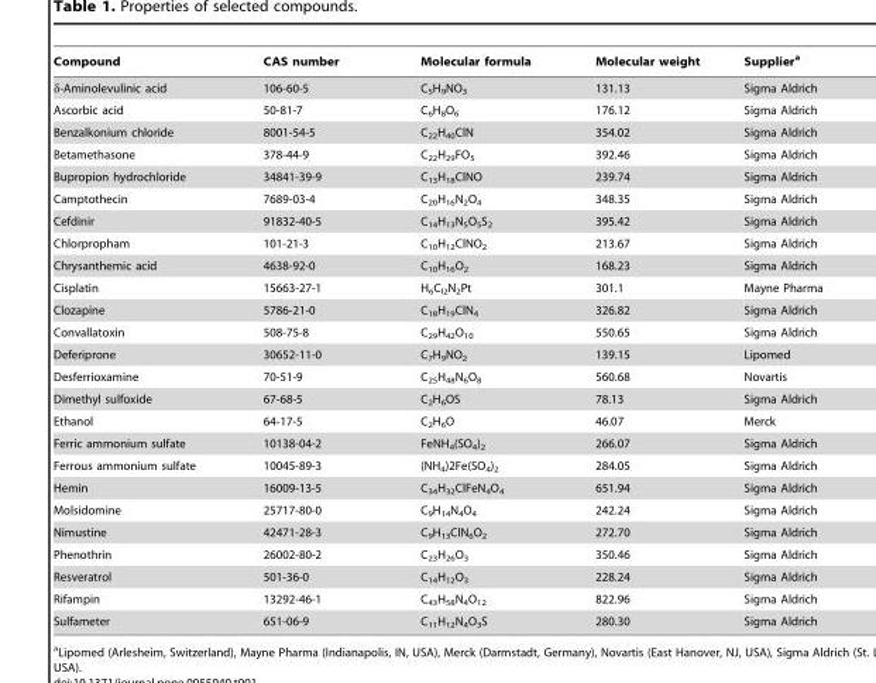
<table><thead><tr><td>Compound</td><td>CAS number</td><td>Molecular formula</td><td>Molecular weight</td><td>Supplier<sup>a</sup></td></tr></thead><tbody><tr><td>δ-Aminolevulinic acid</td><td>106-60-5</td><td>C<sub>5</sub>H<sub>9</sub>NO<sub>3</sub></td><td>131.13</td><td>Sigma Aldrich</td></tr><tr><td>Ascorbic acid</td><td>50-81-7</td><td>C<sub>6</sub>H<sub>8</sub>O<sub>6</sub></td><td>176.12</td><td>Sigma Aldrich</td></tr><tr><td>Benzalkonium chloride</td><td>8001-54-5</td><td>C<sub>22</sub>H<sub>40</sub>ClN</td><td>354.02</td><td>Sigma Aldrich</td></tr><tr><td>Betamethasone</td><td>378-44-9</td><td>C<sub>22</sub>H<sub>29</sub>FO<sub>5</sub></td><td>392.46</td><td>Sigma Aldrich</td></tr><tr><td>Bupropion hydrochloride</td><td>34841-39-9</td><td>C<sub>13</sub>H<sub>18</sub>ClNO</td><td>239.74</td><td>Sigma Aldrich</td></tr><tr><td>Camptothecin</td><td>7689-03-4</td><td>C<sub>20</sub>H<sub>16</sub>N<sub>2</sub>O<sub>4</sub></td><td>348.35</td><td>Sigma Aldrich</td></tr><tr><td>Cefdinir</td><td>91832-40-5</td><td>C<sub>14</sub>H<sub>13</sub>N<sub>5</sub>O<sub>5</sub>S<sub>2</sub></td><td>395.42</td><td>Sigma Aldrich</td></tr><tr><td>Chlorpropham</td><td>101-21-3</td><td>C<sub>10</sub>H<sub>12</sub>ClNO<sub>2</sub></td><td>213.67</td><td>Sigma Aldrich</td></tr><tr><td>Chrysanthemic acid</td><td>4638-92-0</td><td>C<sub>10</sub>H<sub>16</sub>O<sub>2</sub></td><td>168.23</td><td>Sigma Aldrich</td></tr><tr><td>Cisplatin</td><td>15663-27-1</td><td>H<sub>6</sub>C<sub>l2</sub>N<sub>2</sub>Pt</td><td>301.1</td><td>Mayne Pharma</td></tr><tr><td>Clozapine</td><td>5786-21-0</td><td>C<sub>18</sub>H<sub>19</sub>ClN<sub>4</sub></td><td>326.82</td><td>Sigma Aldrich</td></tr><tr><td>Convallatoxin</td><td>508-75-8</td><td>C<sub>29</sub>H<sub>42</sub>O<sub>10</sub></td><td>550.65</td><td>Sigma Aldrich</td></tr><tr><td>Deferiprone</td><td>30652-11-0</td><td>C<sub>7</sub>H<sub>9</sub>NO<sub>2</sub></td><td>139.15</td><td>Lipomed</td></tr><tr><td>Desferrioxamine</td><td>70-51-9</td><td>C<sub>25</sub>H<sub>48</sub>N<sub>6</sub>O<sub>8</sub></td><td>560.68</td><td>Novartis</td></tr><tr><td>Dimethyl sulfoxide</td><td>67-68-5</td><td>C<sub>2</sub>H<sub>6</sub>OS</td><td>78.13</td><td>Sigma Aldrich</td></tr><tr><td>Ethanol</td><td>64-17-5</td><td>C<sub>2</sub>H<sub>6</sub>O</td><td>46.07</td><td>Merck</td></tr><tr><td>Ferric ammonium sulfate</td><td>10138-04-2</td><td>FeNH<sub>4</sub>(SO<sub>4</sub>)<sub>2</sub></td><td>266.07</td><td>Sigma Aldrich</td></tr><tr><td>Ferrous ammonium sulfate</td><td>10045-89-3</td><td>(NH<sub>4</sub>)2Fe(SO<sub>4</sub>)<sub>2</sub></td><td>284.05</td><td>Sigma Aldrich</td></tr><tr><td>Hemin</td><td>16009-13-5</td><td>C<sub>34</sub>H<sub>32</sub>ClFeN<sub>4</sub>O<sub>4</sub></td><td>651.94</td><td>Sigma Aldrich</td></tr><tr><td>Molsidomine</td><td>25717-80-0</td><td>C<sub>9</sub>H<sub>14</sub>N<sub>4</sub>O<sub>4</sub></td><td>242.24</td><td>Sigma Aldrich</td></tr><tr><td>Nimustine</td><td>42471-28-3</td><td>C<sub>9</sub>H<sub>13</sub>ClN<sub>6</sub>O<sub>2</sub></td><td>272.70</td><td>Sigma Aldrich</td></tr><tr><td>Phenothrin</td><td>26002-80-2</td><td>C<sub>23</sub>H<sub>26</sub>O<sub>3</sub></td><td>350.46</td><td>Sigma Aldrich</td></tr><tr><td>Resveratrol</td><td>501-36-0</td><td>C<sub>14</sub>H<sub>12</sub>O<sub>3</sub></td><td>228.24</td><td>Sigma Aldrich</td></tr><tr><td>Rifampin</td><td>13292-46-1</td><td>C<sub>43</sub>H<sub>58</sub>N<sub>4</sub>O<sub>12</sub></td><td>822.96</td><td>Sigma Aldrich</td></tr><tr><td>Sulfameter</td><td>651-06-9</td><td>C<sub>11</sub>H<sub>12</sub>N<sub>4</sub>O<sub>3</sub>S</td><td>280.30</td><td>Sigma Aldrich</td></tr></tbody></table>